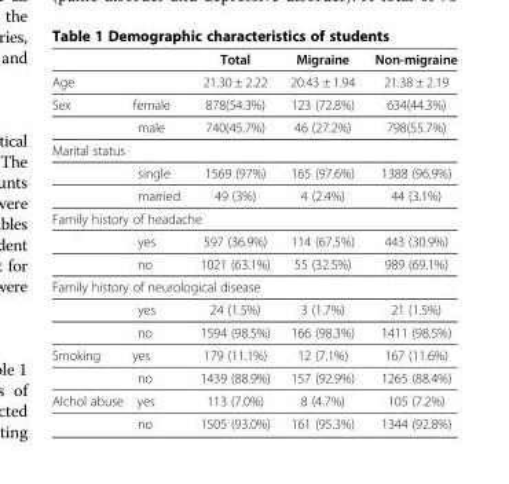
<table><thead><tr><td></td><td>Total</td><td>Migraine</td><td>Non-migraine</td></tr></thead><tbody><tr><td>Age</td><td>21.30 ± 2.22</td><td>20.43 ± 1.94</td><td>21.38 ± 2.19</td></tr><tr><td>Sex female</td><td>878(54.3%)</td><td>123 (72.8%)</td><td>634(44.3%)</td></tr><tr><td>male</td><td>740(45.7%)</td><td>46 (27.2%)</td><td>798(55.7%)</td></tr><tr><td colspan="4">Marital status</td></tr><tr><td>single</td><td>1569 (97%)</td><td>165 (97.6%)</td><td>1388 (96.9%)</td></tr><tr><td>married</td><td>49 (3%)</td><td>4 (2.4%)</td><td>44 (3.1%)</td></tr><tr><td colspan="4">Family history of headache</td></tr><tr><td>yes</td><td>597 (36.9%)</td><td>114 (67.5%)</td><td>443 (30.9%)</td></tr><tr><td>no</td><td>1021 (63.1%)</td><td>55 (32.5%)</td><td>989 (69.1%)</td></tr><tr><td colspan="4">Family history of neurological disease</td></tr><tr><td>yes</td><td>24 (1.5%)</td><td>3 (1.7%)</td><td>21 (1.5%)</td></tr><tr><td>no</td><td>1594 (98.5%)</td><td>166 (98.3%)</td><td>1411 (98.5%)</td></tr><tr><td>Smoking yes</td><td>179 (11.1%)</td><td>12 (7.1%)</td><td>167 (11.6%)</td></tr><tr><td>no</td><td>1439 (88.9%)</td><td>157 (92.9%)</td><td>1265 (88.4%)</td></tr><tr><td>Alchol abuse yes</td><td>113 (7.0%)</td><td>8 (4.7%)</td><td>105 (7.2%)</td></tr><tr><td>no</td><td>1505 (93.0%)</td><td>161 (95.3%)</td><td>1344 (92.8%)</td></tr></tbody></table>